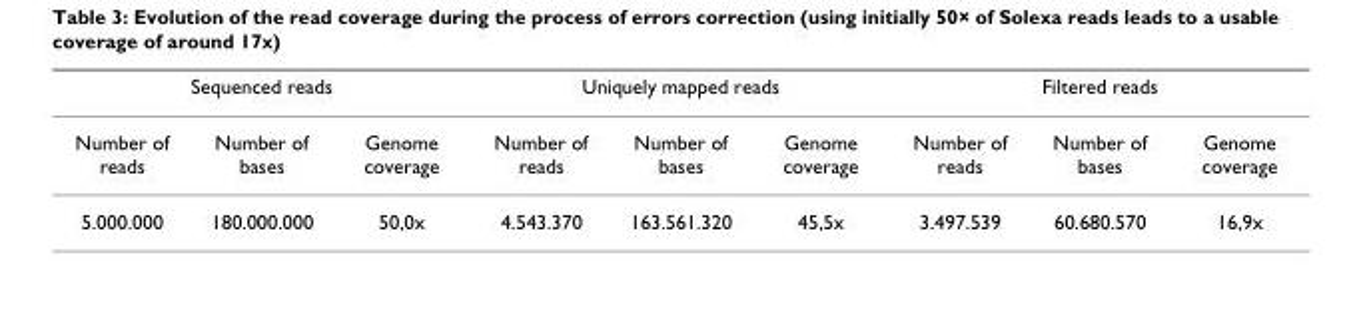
<table><thead><tr><td colspan="3">Sequenced reads</td><td colspan="3">Uniquely mapped reads</td><td colspan="3">Filtered reads</td></tr><tr><td>Number of reads</td><td>Number of bases</td><td>Genome coverage</td><td>Number of reads</td><td>Number of bases</td><td>Genome coverage</td><td>Number of reads</td><td>Number of bases</td><td>Genome coverage</td></tr></thead><tbody><tr><td>5.000.000</td><td>180.000.000</td><td>50,0x</td><td>4.543.370</td><td>163.561.320</td><td>45,5x</td><td>3.497.539</td><td>60.680.570</td><td>16,9x</td></tr></tbody></table>